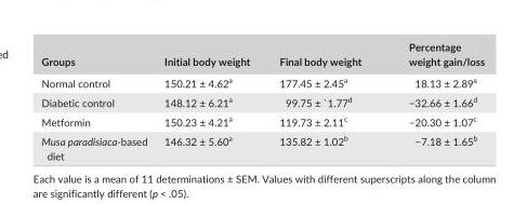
<table><thead><tr><td>Groups</td><td>Initial body weight</td><td>Final body weight</td><td>Percentage weight gain/loss</td></tr></thead><tbody><tr><td>Normal control</td><td>150.21 ± 4.62<sup>a</sup></td><td>177.45 ± 2.45<sup>a</sup></td><td>18.13 ± 2.89<sup>a</sup></td></tr><tr><td>Diabetic control</td><td>148.12 ± 6.21<sup>a</sup></td><td>99.75 ± `1.77<sup>d</sup></td><td>−32.66 ± 1.66<sup>d</sup></td></tr><tr><td>Metformin</td><td>150.23 ± 4.21<sup>a</sup></td><td>119.73 ± 2.11<sup>c</sup></td><td>−20.30 ± 1.07<sup>c</sup></td></tr><tr><td>Musa paradisiaca-based diet</td><td>146.32 ± 5.60<sup>a</sup></td><td>135.82 ± 1.02<sup>b</sup></td><td>−7.18 ± 1.65<sup>b</sup></td></tr></tbody></table>